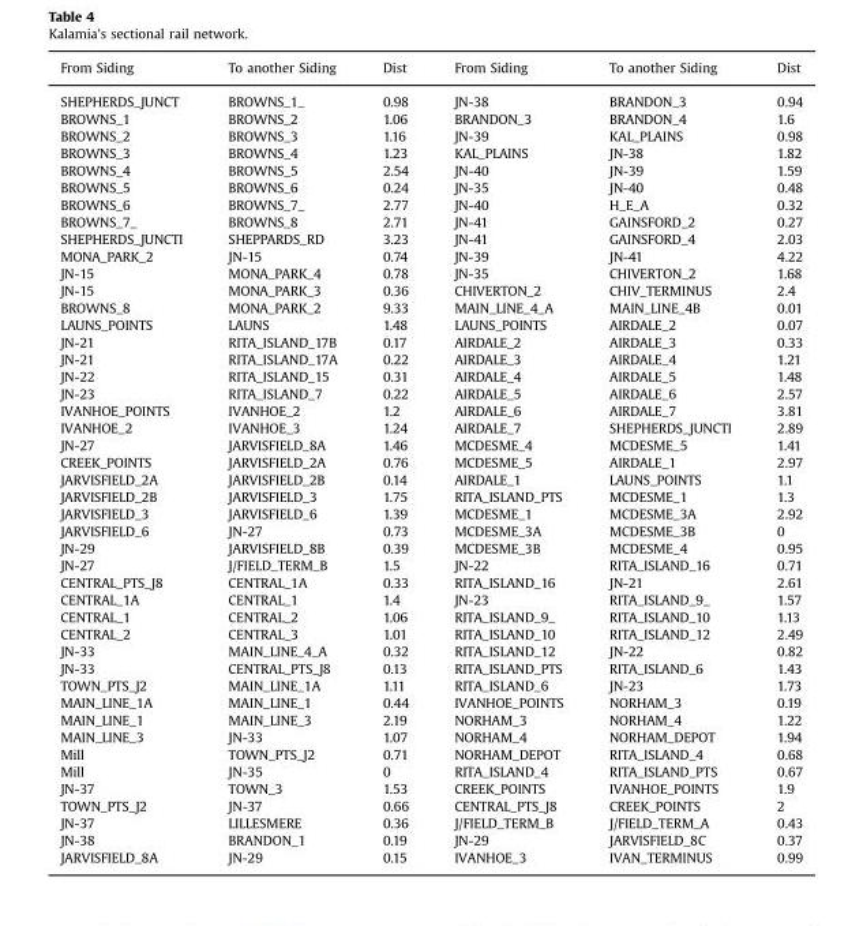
<table><thead><tr><td>From Siding</td><td>To another Siding</td><td>Dist</td><td>From Siding</td><td>To another Siding</td><td>Dist</td></tr></thead><tbody><tr><td>SHEPHERDS_JUNCT</td><td>BROWNS_1_</td><td>0.98</td><td>JN-38</td><td>BRANDON_3</td><td>0.94</td></tr><tr><td>BROWNS_1</td><td>BROWNS_2</td><td>1.06</td><td>BRANDON_3</td><td>BRANDON_4</td><td>1.6</td></tr><tr><td>BROWNS_2</td><td>BROWNS_3</td><td>1.16</td><td>JN-39</td><td>KAL_PLAINS</td><td>0.98</td></tr><tr><td>BROWNS_3</td><td>BROWNS_4</td><td>1.23</td><td>KAL_PLAINS</td><td>JN-38</td><td>1.82</td></tr><tr><td>BROWNS_4</td><td>BROWNS_5</td><td>2.54</td><td>JN-40</td><td>JN-39</td><td>1.59</td></tr><tr><td>BROWNS_5</td><td>BROWNS_6</td><td>0.24</td><td>JN-35</td><td>JN-40</td><td>0.48</td></tr><tr><td>BROWNS_6</td><td>BROWNS_7_</td><td>2.77</td><td>JN-40</td><td>H_E_A</td><td>0.32</td></tr><tr><td>BROWNS_7_</td><td>BROWNS_8</td><td>2.71</td><td>JN-41</td><td>GAINSFORD_2</td><td>0.27</td></tr><tr><td>SHEPHERDS_JUNCTI</td><td>SHEPPARDS_RD</td><td>3.23</td><td>JN-41</td><td>GAINSFORD_4</td><td>2.03</td></tr><tr><td>MONA_PARK_2</td><td>JN-15</td><td>0.74</td><td>JN-39</td><td>JN-41</td><td>4.22</td></tr><tr><td>JN-15</td><td>MONA_PARK_4</td><td>0.78</td><td>JN-35</td><td>CHIVERTON_2</td><td>1.68</td></tr><tr><td>JN-15</td><td>MONA_PARK_3</td><td>0.36</td><td>CHIVERTON_2</td><td>CHIV_TERMINUS</td><td>2.4</td></tr><tr><td>BROWNS_8</td><td>MONA_PARK_2</td><td>9.33</td><td>MAIN_LINE_4_A</td><td>MAIN_LINE_4B</td><td>0.01</td></tr><tr><td>LAUNS_POINTS</td><td>LAUNS</td><td>1.48</td><td>LAUNS_POINTS</td><td>AIRDALE_2</td><td>0.07</td></tr><tr><td>JN-21</td><td>RITA_ISLAND_17B</td><td>0.17</td><td>AIRDALE_2</td><td>AIRDALE_3</td><td>0.33</td></tr><tr><td>JN-21</td><td>RITA_ISLAND_17A</td><td>0.22</td><td>AIRDALE_3</td><td>AIRDALE_4</td><td>1.21</td></tr><tr><td>JN-22</td><td>RITA_ISLAND_15</td><td>0.31</td><td>AIRDALE_4</td><td>AIRDALE_5</td><td>1.48</td></tr><tr><td>JN-23</td><td>RITA_ISLAND_7</td><td>0.22</td><td>AIRDALE_5</td><td>AIRDALE_6</td><td>2.57</td></tr><tr><td>IVANHOE_POINTS</td><td>IVANHOE_2</td><td>1.2</td><td>AIRDALE_6</td><td>AIRDALE_7</td><td>3.81</td></tr><tr><td>IVANHOE_2</td><td>IVANHOE_3</td><td>1.24</td><td>AIRDALE_7</td><td>SHEPHERDS_JUNCTI</td><td>2.89</td></tr><tr><td>JN-27</td><td>JARVISFIELD_8A</td><td>1.46</td><td>MCDESME_4</td><td>MCDESME_5</td><td>1.41</td></tr><tr><td>CREEK_POINTS</td><td>JARVISFIELD_2A</td><td>0.76</td><td>MCDESME_5</td><td>AIRDALE_1</td><td>2.97</td></tr><tr><td>JARVISFIELD_2A</td><td>JARVISFIELD_2B</td><td>0.14</td><td>AIRDALE_1</td><td>LAUNS_POINTS</td><td>1.1</td></tr><tr><td>JARVISFIELD_2B</td><td>JARVISFIELD_3</td><td>1.75</td><td>RITA_ISLAND_PTS</td><td>MCDESME_1</td><td>1.3</td></tr><tr><td>JARVISFIELD_3</td><td>JARVISFIELD_6</td><td>1.39</td><td>MCDESME_1</td><td>MCDESME_3A</td><td>2.92</td></tr><tr><td>JARVISFIELD_6</td><td>JN-27</td><td>0.73</td><td>MCDESME_3A</td><td>MCDESME_3B</td><td>0</td></tr><tr><td>JN-29</td><td>JARVISFIELD_8B</td><td>0.39</td><td>MCDESME_3B</td><td>MCDESME_4</td><td>0.95</td></tr><tr><td>JN-27</td><td>J/FIELD_TERM_B</td><td>1.5</td><td>JN-22</td><td>RITA_ISLAND_16</td><td>0.71</td></tr><tr><td>CENTRAL_PTS_J8</td><td>CENTRAL_1A</td><td>0.33</td><td>RITA_ISLAND_16</td><td>JN-21</td><td>2.61</td></tr><tr><td>CENTRAL_1A</td><td>CENTRAL_1</td><td>1.4</td><td>JN-23</td><td>RITA_ISLAND_9_</td><td>1.57</td></tr><tr><td>CENTRAL_1</td><td>CENTRAL_2</td><td>1.06</td><td>RITA_ISLAND_9_</td><td>RITA_ISLAND_10</td><td>1.13</td></tr><tr><td>CENTRAL_2</td><td>CENTRAL_3</td><td>1.01</td><td>RITA_ISLAND_10</td><td>RITA_ISLAND_12</td><td>2.49</td></tr><tr><td>JN-33</td><td>MAIN_LINE_4_A</td><td>0.32</td><td>RITA_ISLAND_12</td><td>JN-22</td><td>0.82</td></tr><tr><td>JN-33</td><td>CENTRAL_PTS_J8</td><td>0.13</td><td>RITA_ISLAND_PTS</td><td>RITA_ISLAND_6</td><td>1.43</td></tr><tr><td>TOWN_PTS_J2</td><td>MAIN_LINE_1A</td><td>1.11</td><td>RITA_ISLAND_6</td><td>JN-23</td><td>1.73</td></tr><tr><td>MAIN_LINE_1A</td><td>MAIN_LINE_1</td><td>0.44</td><td>IVANHOE_POINTS</td><td>NORHAM_3</td><td>0.19</td></tr><tr><td>MAIN_LINE_1</td><td>MAIN_LINE_3</td><td>2.19</td><td>NORHAM_3</td><td>NORHAM_4</td><td>1.22</td></tr><tr><td>MAIN_LINE_3</td><td>JN-33</td><td>1.07</td><td>NORHAM_4</td><td>NORHAM_DEPOT</td><td>1.94</td></tr><tr><td>Mill</td><td>TOWN_PTS_J2</td><td>0.71</td><td>NORHAM_DEPOT</td><td>RITA_ISLAND_4</td><td>0.68</td></tr><tr><td>Mill</td><td>JN-35</td><td>0</td><td>RITA_ISLAND_4</td><td>RITA_ISLAND_PTS</td><td>0.67</td></tr><tr><td>JN-37</td><td>TOWN_3</td><td>1.53</td><td>CREEK_POINTS</td><td>IVANHOE_POINTS</td><td>1.9</td></tr><tr><td>TOWN_PTS_J2</td><td>JN-37</td><td>0.66</td><td>CENTRAL_PTS_J8</td><td>CREEK_POINTS</td><td>2</td></tr><tr><td>JN-37</td><td>LILLESMERE</td><td>0.36</td><td>J/FIELD_TERM_B</td><td>J/FIELD_TERM_A</td><td>0.43</td></tr><tr><td>JN-38</td><td>BRANDON_1</td><td>0.19</td><td>JN-29</td><td>JARVISFIELD_8C</td><td>0.37</td></tr><tr><td>JARVISFIELD_8A</td><td>JN-29</td><td>0.15</td><td>IVANHOE_3</td><td>IVAN_TERMINUS</td><td>0.99</td></tr></tbody></table>